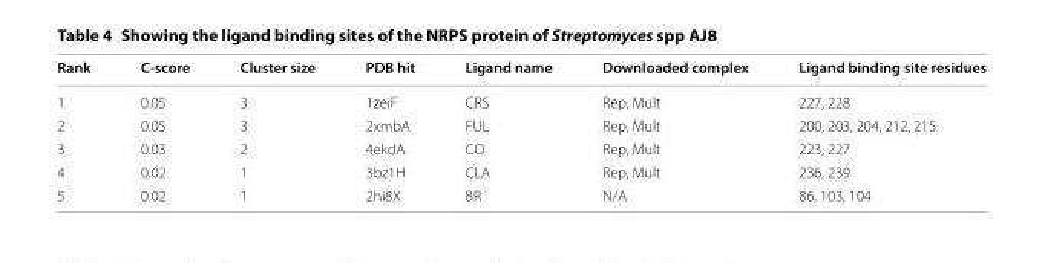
<table><thead><tr><td>Rank</td><td>C-score</td><td>Cluster size</td><td>PDB hit</td><td>Ligand name</td><td>Downloaded complex</td><td>Ligand binding site residues</td></tr></thead><tbody><tr><td>1</td><td>0.05</td><td>3</td><td>1zeiF</td><td>CRS</td><td>Rep, Mult</td><td>227, 228</td></tr><tr><td>2</td><td>0.05</td><td>3</td><td>2xmbA</td><td>FUL</td><td>Rep, Mult</td><td>200, 203, 204, 212, 215</td></tr><tr><td>3</td><td>0.03</td><td>2</td><td>4ekdA</td><td>CO</td><td>Rep, Mult</td><td>223, 227</td></tr><tr><td>4</td><td>0.02</td><td>1</td><td>3bz1H</td><td>CLA</td><td>Rep, Mult</td><td>236, 239</td></tr><tr><td>5</td><td>0.02</td><td>1</td><td>2hi8X</td><td>BR</td><td>N/A</td><td>86, 103, 104</td></tr></tbody></table>